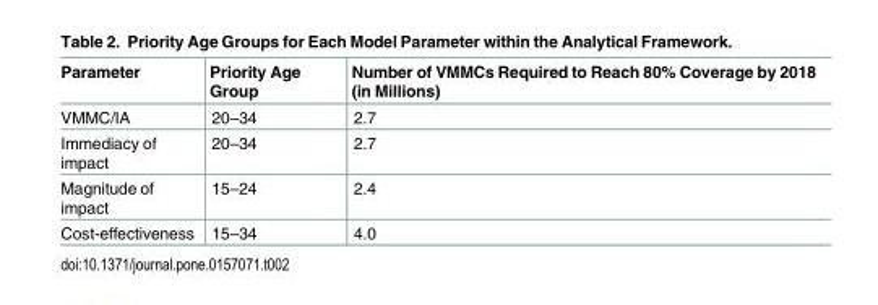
<table><thead><tr><td>Parameter</td><td>Priority Age Group</td><td>Number of VMMCs Required to Reach 80% Coverage by 2018 (in Millions)</td></tr></thead><tbody><tr><td>VMMC/IA</td><td>20–34</td><td>2.7</td></tr><tr><td>Immediacy of impact</td><td>20–34</td><td>2.7</td></tr><tr><td>Magnitude of impact</td><td>15–24</td><td>2.4</td></tr><tr><td>Cost-effectiveness</td><td>15–34</td><td>4.0</td></tr></tbody></table>